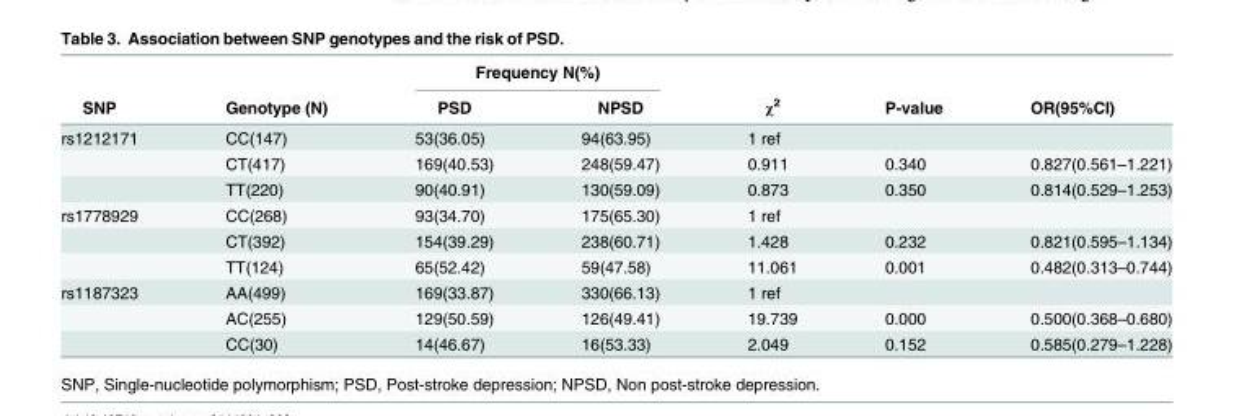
<table><thead><tr><td rowspan="2">SNP</td><td rowspan="2">Genotype (N)</td><td colspan="2">Frequency N(%)</td><td rowspan="2">χ<sup>2</sup></td><td rowspan="2">P-value</td><td rowspan="2">OR(95%CI)</td></tr><tr><td>PSD</td><td>NPSD</td></tr></thead><tbody><tr><td rowspan="3">rs1212171</td><td>CC(147)</td><td>53(36.05)</td><td>94(63.95)</td><td>1 ref</td><td></td><td></td></tr><tr><td>CT(417)</td><td>169(40.53)</td><td>248(59.47)</td><td>0.911</td><td>0.340</td><td>0.827(0.561–1.221)</td></tr><tr><td>TT(220)</td><td>90(40.91)</td><td>130(59.09)</td><td>0.873</td><td>0.350</td><td>0.814(0.529–1.253)</td></tr><tr><td rowspan="3">rs1778929</td><td>CC(268)</td><td>93(34.70)</td><td>175(65.30)</td><td>1 ref</td><td></td><td></td></tr><tr><td>CT(392)</td><td>154(39.29)</td><td>238(60.71)</td><td>1.428</td><td>0.232</td><td>0.821(0.595–1.134)</td></tr><tr><td>TT(124)</td><td>65(52.42)</td><td>59(47.58)</td><td>11.061</td><td>0.001</td><td>0.482(0.313–0.744)</td></tr><tr><td rowspan="3">rs1187323</td><td>AA(499)</td><td>169(33.87)</td><td>330(66.13)</td><td>1 ref</td><td></td><td></td></tr><tr><td>AC(255)</td><td>129(50.59)</td><td>126(49.41)</td><td>19.739</td><td>0.000</td><td>0.500(0.368–0.680)</td></tr><tr><td>CC(30)</td><td>14(46.67)</td><td>16(53.33)</td><td>2.049</td><td>0.152</td><td>0.585(0.279–1.228)</td></tr></tbody></table>